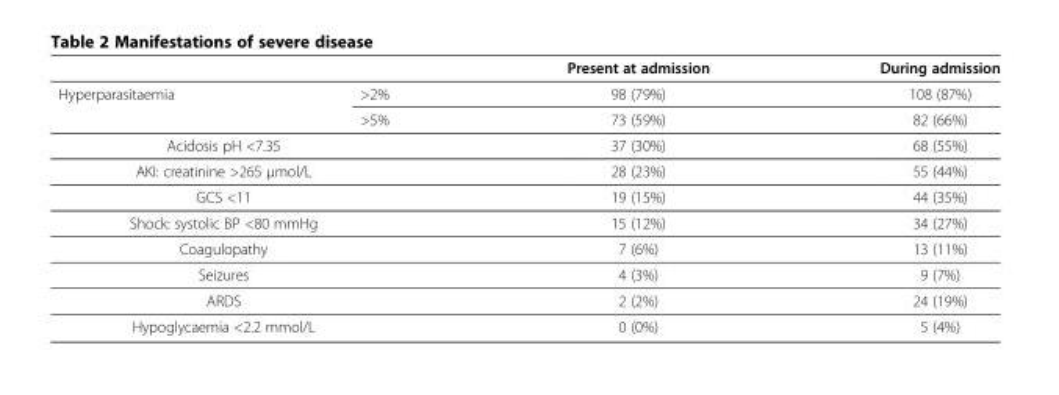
<table><thead><tr><td></td><td></td><td>Present at admission</td><td>During admission</td></tr></thead><tbody><tr><td rowspan="2">Hyperparasitaemia</td><td>&gt;2%</td><td>98 (79%)</td><td>108 (87%)</td></tr><tr><td>&gt;5%</td><td>73 (59%)</td><td>82 (66%)</td></tr><tr><td colspan="2">Acidosis pH &lt;7.35</td><td>37 (30%)</td><td>68 (55%)</td></tr><tr><td colspan="2">AKI: creatinine &gt;265 μmol/L</td><td>28 (23%)</td><td>55 (44%)</td></tr><tr><td colspan="2">GCS &lt;11</td><td>19 (15%)</td><td>44 (35%)</td></tr><tr><td colspan="2">Shock: systolic BP &lt;80 mmHg</td><td>15 (12%)</td><td>34 (27%)</td></tr><tr><td colspan="2">Coagulopathy</td><td>7 (6%)</td><td>13 (11%)</td></tr><tr><td colspan="2">Seizures</td><td>4 (3%)</td><td>9 (7%)</td></tr><tr><td colspan="2">ARDS</td><td>2 (2%)</td><td>24 (19%)</td></tr><tr><td colspan="2">Hypoglycaemia &lt;2.2 mmol/L</td><td>0 (0%)</td><td>5 (4%)</td></tr></tbody></table>